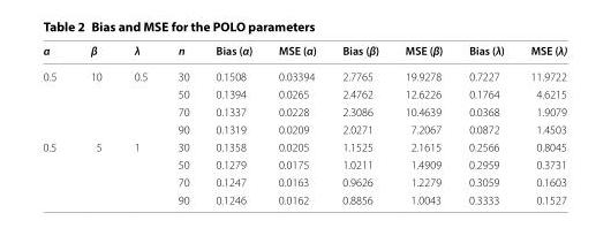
<table><thead><tr><td>α</td><td>β</td><td>λ</td><td>n</td><td>Bias (α)</td><td>MSE (α)</td><td>Bias (β)</td><td>MSE (β)</td><td>Bias (λ)</td><td>MSE (λ)</td></tr></thead><tbody><tr><td rowspan="4">0.5</td><td>10</td><td>0.5</td><td>30</td><td>0.1508</td><td>0.03394</td><td>2.7765</td><td>19.9278</td><td>0.7227</td><td>11.9722</td></tr><tr><td rowspan="3"></td><td rowspan="3"></td><td>50</td><td>0.1394</td><td>0.0265</td><td>2.4762</td><td>12.6226</td><td>0.1764</td><td>4.6215</td></tr><tr><td>70</td><td>0.1337</td><td>0.0228</td><td>2.3086</td><td>10.4639</td><td>0.0368</td><td>1.9079</td></tr><tr><td>90</td><td>0.1319</td><td>0.0209</td><td>2.0271</td><td>7.2067</td><td>0.0872</td><td>1.4503</td></tr><tr><td rowspan="4">0.5</td><td>5</td><td>1</td><td>30</td><td>0.1358</td><td>0.0205</td><td>1.1525</td><td>2.1615</td><td>0.2566</td><td>0.8045</td></tr><tr><td rowspan="3"></td><td rowspan="3"></td><td>50</td><td>0.1279</td><td>0.0175</td><td>1.0211</td><td>1.4909</td><td>0.2959</td><td>0.3731</td></tr><tr><td>70</td><td>0.1247</td><td>0.0163</td><td>0.9626</td><td>1.2279</td><td>0.3059</td><td>0.1603</td></tr><tr><td>90</td><td>0.1246</td><td>0.0162</td><td>0.8856</td><td>1.0043</td><td>0.3333</td><td>0.1527</td></tr></tbody></table>